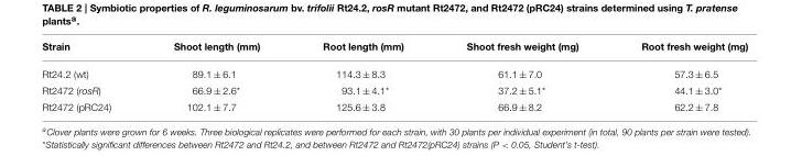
<table><thead><tr><td>Strain</td><td>Shoot length (mm)</td><td>Root length (mm)</td><td>Shoot fresh weight (mg)</td><td>Root fresh weight (mg)</td></tr></thead><tbody><tr><td>Rt24.2 (wt)</td><td>89.1 ± 6.1</td><td>114.3 ± 8.3</td><td>61.1 ± 7.0</td><td>57.3 ± 6.5</td></tr><tr><td>Rt2472 (rosR)</td><td>66.9 ± 2.6*</td><td>93.1 ± 4.1*</td><td>37.2 ± 5.1*</td><td>44.1 ± 3.0*</td></tr><tr><td>Rt2472 (pRC24)</td><td>102.1 ± 7.7</td><td>125.6 ± 3.8</td><td>66.9 ± 8.2</td><td>62.2 ± 7.8</td></tr></tbody></table>